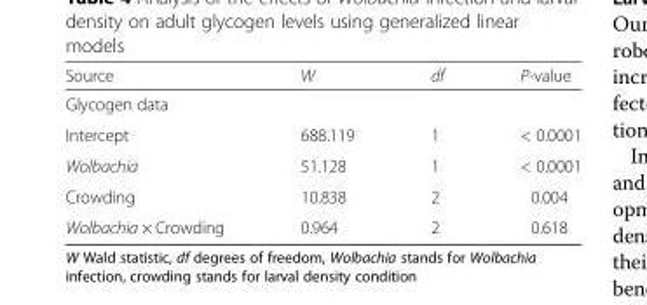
<table><thead><tr><td>Source</td><td>W</td><td>df</td><td>P-value</td></tr></thead><tbody><tr><td colspan="4">Glycogen data</td></tr><tr><td>Intercept</td><td>688.119</td><td>1</td><td>&lt; 0.0001</td></tr><tr><td>Wolbachia</td><td>51.128</td><td>1</td><td>&lt; 0.0001</td></tr><tr><td>Crowding</td><td>10.838</td><td>2</td><td>0.004</td></tr><tr><td>Wolbachia × Crowding</td><td>0.964</td><td>2</td><td>0.618</td></tr></tbody></table>